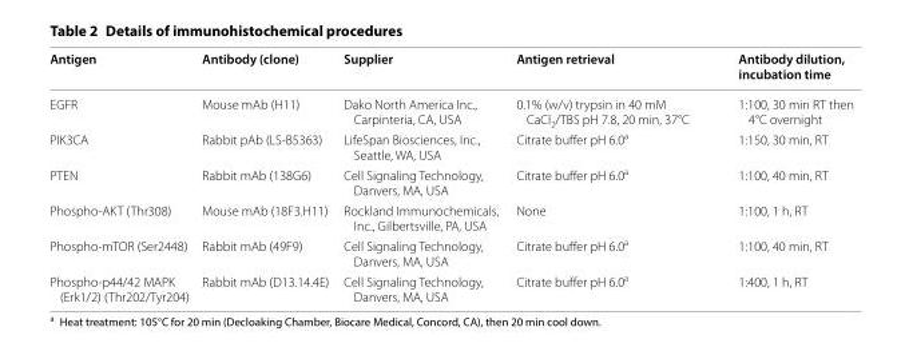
<table><thead><tr><td>Antigen</td><td>Antibody (clone)</td><td>Supplier</td><td>Antigen retrieval</td><td>Antibody dilution, incubation time</td></tr></thead><tbody><tr><td>EGFR</td><td>Mouse mAb (H11)</td><td>Dako North America Inc., Carpinteria, CA, USA</td><td>0.1% (w/v) trypsin in 40 mM CaCl<sub>2</sub>/TBS pH 7.8, 20 min, 37°C</td><td>1:100, 30 min RT then 4°C overnight</td></tr><tr><td>PIK3CA</td><td>Rabbit pAb (LS-B5363)</td><td>LifeSpan Biosciences, Inc., Seattle, WA, USA</td><td>Citrate buffer pH 6.0<sup>a</sup></td><td>1:150, 30 min, RT</td></tr><tr><td>PTEN</td><td>Rabbit mAb (138G6)</td><td>Cell Signaling Technology, Danvers, MA, USA</td><td>Citrate buffer pH 6.0<sup>a</sup></td><td>1:100, 40 min, RT</td></tr><tr><td>Phospho-AKT (Thr308)</td><td>Mouse mAb (18F3.H11)</td><td>Rockland Immunochemicals, Inc., Gilbertsville, PA, USA</td><td>None</td><td>1:100, 1 h, RT</td></tr><tr><td>Phospho-mTOR (Ser2448)</td><td>Rabbit mAb (49F9)</td><td>Cell Signaling Technology, Danvers, MA, USA</td><td>Citrate buffer pH 6.0<sup>a</sup></td><td>1:100, 40 min, RT</td></tr><tr><td>Phospho-p44/42 MAPK (Erk1/2) (Thr202/Tyr204)</td><td>Rabbit mAb (D13.14.4E)</td><td>Cell Signaling Technology, Danvers, MA, USA</td><td>Citrate buffer pH 6.0<sup>a</sup></td><td>1:400, 1 h, RT</td></tr></tbody></table>